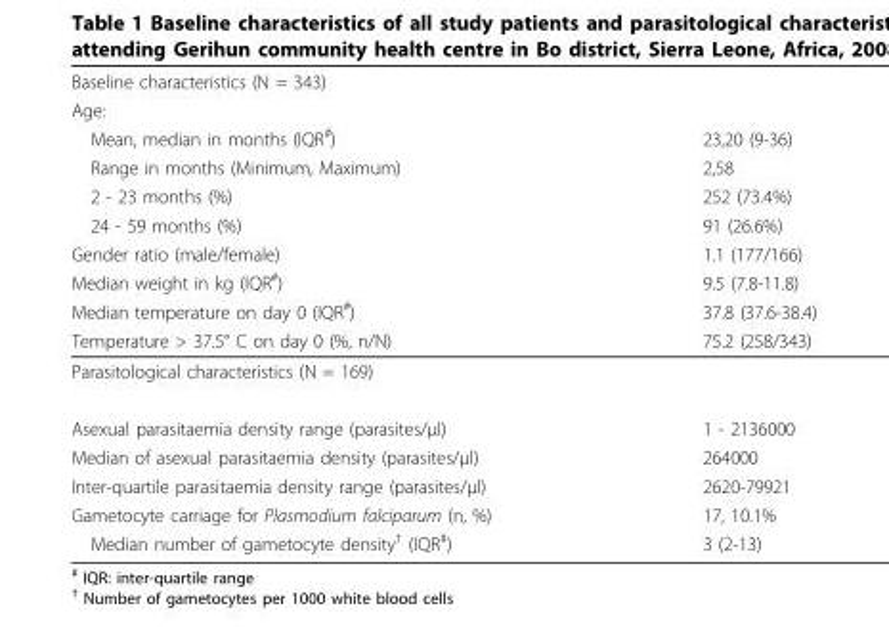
<table><thead><tr><td rowspan="10">Baseline characteristics (N = 343) Age: Mean, median in months (IQR#) Range in months (Minimum, Maximum) 2 - 23 months (%) 24 - 59 months (%) Gender ratio (male/female) Median weight in kg (IQR#) Median temperature on day 0 (IQR#) Temperature &gt; 37.5° C on day 0 (%, n/N)</td><td rowspan="10">23,20 (9-36) 2,58 252 (73.4%) 91 (26.6%) 1.1 (177/166) 9.5 (7.8-11.8) 37.8 (37.6-38.4) 75.2 (258/343)</td></tr><tr></tr><tr></tr><tr></tr><tr></tr><tr></tr><tr></tr><tr></tr><tr></tr><tr></tr></thead><tbody><tr><td colspan="2">Parasitological characteristics (N = 169)</td></tr><tr><td>Asexual parasitaemia density range (parasites/μl)</td><td>1 - 2136000</td></tr><tr><td>Median of asexual parasitaemia density (parasites/μl)</td><td>264000</td></tr><tr><td>Inter-quartile parasitaemia density range (parasites/μl)</td><td>2620-79921</td></tr><tr><td>Gametocyte carriage for Plasmodium falciparum (n, %)</td><td>17, 10.1%</td></tr><tr><td>Median number of gametocyte density<sup>†</sup> (IQR<sup>#</sup>)</td><td>3 (2-13)</td></tr></tbody></table>